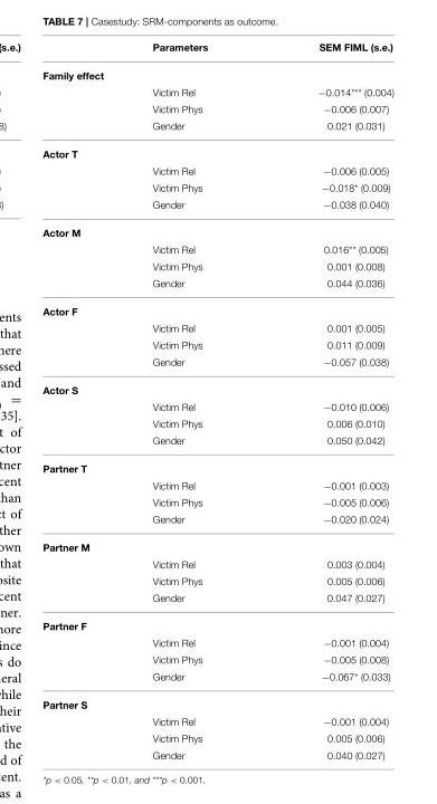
<table><thead><tr><td></td><td>Parameters</td><td>SEM FIML (s.e.)</td></tr></thead><tbody><tr><td colspan="3">Family effect</td></tr><tr><td></td><td>Victim Rel</td><td>−0.014*** (0.004)</td></tr><tr><td></td><td>Victim Phys</td><td>−0.006 (0.007)</td></tr><tr><td></td><td>Gender</td><td>0.021 (0.031)</td></tr><tr><td colspan="3">Actor T</td></tr><tr><td></td><td>Victim Rel</td><td>−0.006 (0.005)</td></tr><tr><td></td><td>Victim Phys</td><td>−0.018* (0.009)</td></tr><tr><td></td><td>Gender</td><td>−0.038 (0.040)</td></tr><tr><td colspan="3">Actor M</td></tr><tr><td></td><td>Victim Rel</td><td>0.016** (0.005)</td></tr><tr><td></td><td>Victim Phys</td><td>0.001 (0.008)</td></tr><tr><td></td><td>Gender</td><td>0.044 (0.036)</td></tr><tr><td colspan="3">Actor F</td></tr><tr><td></td><td>Victim Rel</td><td>0.001 (0.005)</td></tr><tr><td></td><td>Victim Phys</td><td>0.011 (0.009)</td></tr><tr><td></td><td>Gender</td><td>−0.057 (0.038)</td></tr><tr><td colspan="3">Actor S</td></tr><tr><td></td><td>Victim Rel</td><td>−0.010 (0.006)</td></tr><tr><td></td><td>Victim Phys</td><td>0.006 (0.010)</td></tr><tr><td></td><td>Gender</td><td>0.050 (0.042)</td></tr><tr><td colspan="3">Partner T</td></tr><tr><td></td><td>Victim Rel</td><td>−0.001 (0.003)</td></tr><tr><td></td><td>Victim Phys</td><td>−0.005 (0.006)</td></tr><tr><td></td><td>Gender</td><td>−0.020 (0.024)</td></tr><tr><td colspan="3">Partner M</td></tr><tr><td></td><td>Victim Rel</td><td>0.003 (0.004)</td></tr><tr><td></td><td>Victim Phys</td><td>0.005 (0.006)</td></tr><tr><td></td><td>Gender</td><td>0.047 (0.027)</td></tr><tr><td colspan="3">Partner F</td></tr><tr><td></td><td>Victim Rel</td><td>−0.001 (0.004)</td></tr><tr><td></td><td>Victim Phys</td><td>−0.005 (0.008)</td></tr><tr><td></td><td>Gender</td><td>−0.067* (0.033)</td></tr><tr><td colspan="3">Partner S</td></tr><tr><td></td><td>Victim Rel</td><td>−0.001 (0.004)</td></tr><tr><td></td><td>Victim Phys</td><td>0.005 (0.006)</td></tr><tr><td></td><td>Gender</td><td>0.040 (0.027)</td></tr></tbody></table>